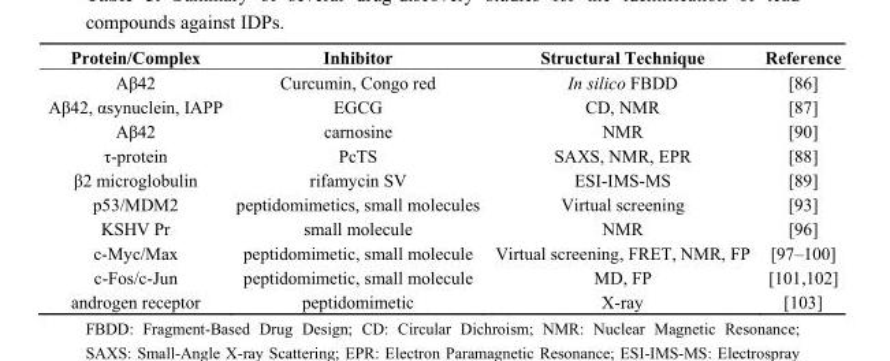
<table><thead><tr><td>Protein/Complex</td><td>Inhibitor</td><td>Structural Technique</td><td>Reference</td></tr></thead><tbody><tr><td>Aβ42</td><td>Curcumin, Congo red</td><td>In silico FBDD</td><td>[86]</td></tr><tr><td>Aβ42, αsynuclein, IAPP</td><td>EGCG</td><td>CD, NMR</td><td>[87]</td></tr><tr><td>Aβ42</td><td>carnosine</td><td>NMR</td><td>[90]</td></tr><tr><td>τ-protein</td><td>PcTS</td><td>SAXS, NMR, EPR</td><td>[88]</td></tr><tr><td>β2 microglobulin</td><td>rifamycin SV</td><td>ESI-IMS-MS</td><td>[89]</td></tr><tr><td>p53/MDM2</td><td>peptidomimetics, small molecules</td><td>Virtual screening</td><td>[93]</td></tr><tr><td>KSHV Pr</td><td>small molecule</td><td>NMR</td><td>[96]</td></tr><tr><td>c-Myc/Max</td><td>peptidomimetic, small molecule</td><td>Virtual screening, FRET, NMR, FP</td><td>[97–100]</td></tr><tr><td>c-Fos/c-Jun</td><td>peptidomimetic, small molecule</td><td>MD, FP</td><td>[101,102]</td></tr><tr><td>androgen receptor</td><td>peptidomimetic</td><td>X-ray</td><td>[103]</td></tr></tbody></table>